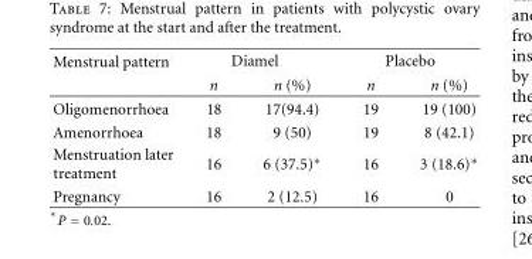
<table><thead><tr><td rowspan="2">Menstrual pattern</td><td colspan="2">Diamel</td><td colspan="2">Placebo</td></tr><tr><td>n</td><td>n (%)</td><td>n</td><td>n (%)</td></tr></thead><tbody><tr><td>Oligomenorrhoea</td><td>18</td><td>17(94.4)</td><td>19</td><td>19 (100)</td></tr><tr><td>Amenorrhoea</td><td>18</td><td>9 (50)</td><td>19</td><td>8 (42.1)</td></tr><tr><td>Menstruation later treatment</td><td>16</td><td>6 (37.5)∗</td><td>16</td><td>3 (18.6)∗</td></tr><tr><td>Pregnancy</td><td>16</td><td>2 (12.5)</td><td>16</td><td>0</td></tr></tbody></table>